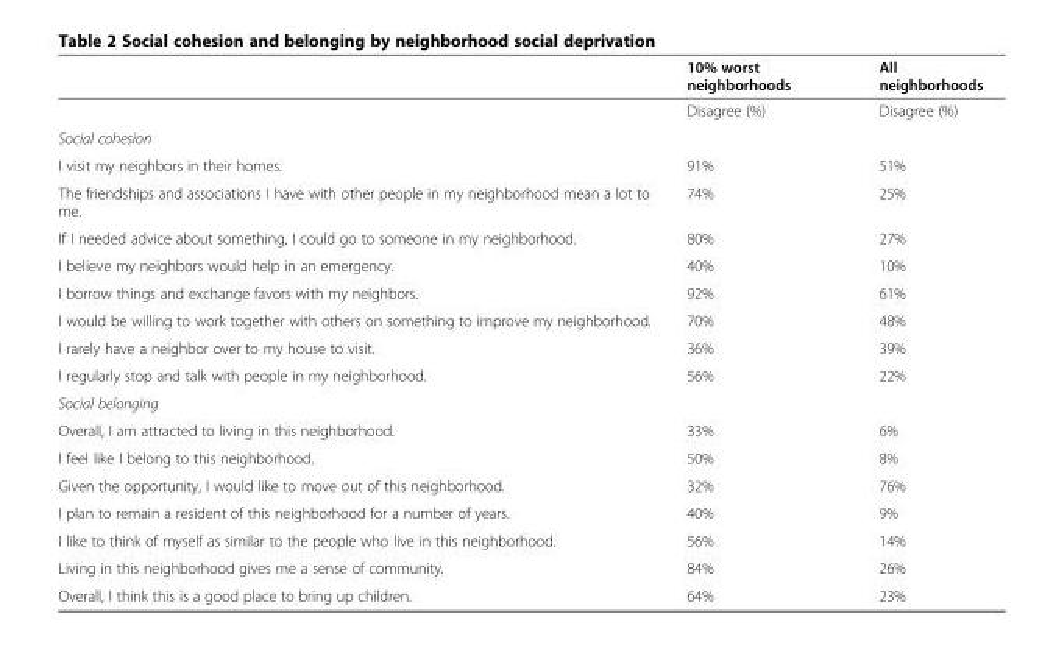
<table><thead><tr><td></td><td>10% worst neighborhoods</td><td>All neighborhoods</td></tr></thead><tbody><tr><td></td><td>Disagree (%)</td><td>Disagree (%)</td></tr><tr><td colspan="3">Social cohesion</td></tr><tr><td>I visit my neighbors in their homes.</td><td>91%</td><td>51%</td></tr><tr><td>The friendships and associations I have with other people in my neighborhood mean a lot to me.</td><td>74%</td><td>25%</td></tr><tr><td>If I needed advice about something, I could go to someone in my neighborhood.</td><td>80%</td><td>27%</td></tr><tr><td>I believe my neighbors would help in an emergency.</td><td>40%</td><td>10%</td></tr><tr><td>I borrow things and exchange favors with my neighbors.</td><td>92%</td><td>61%</td></tr><tr><td>I would be willing to work together with others on something to improve my neighborhood.</td><td>70%</td><td>48%</td></tr><tr><td>I rarely have a neighbor over to my house to visit.</td><td>36%</td><td>39%</td></tr><tr><td>I regularly stop and talk with people in my neighborhood.</td><td>56%</td><td>22%</td></tr><tr><td colspan="3">Social belonging</td></tr><tr><td>Overall, I am attracted to living in this neighborhood.</td><td>33%</td><td>6%</td></tr><tr><td>I feel like I belong to this neighborhood.</td><td>50%</td><td>8%</td></tr><tr><td>Given the opportunity, I would like to move out of this neighborhood.</td><td>32%</td><td>76%</td></tr><tr><td>I plan to remain a resident of this neighborhood for a number of years.</td><td>40%</td><td>9%</td></tr><tr><td>I like to think of myself as similar to the people who live in this neighborhood.</td><td>56%</td><td>14%</td></tr><tr><td>Living in this neighborhood gives me a sense of community.</td><td>84%</td><td>26%</td></tr><tr><td>Overall, I think this is a good place to bring up children.</td><td>64%</td><td>23%</td></tr></tbody></table>